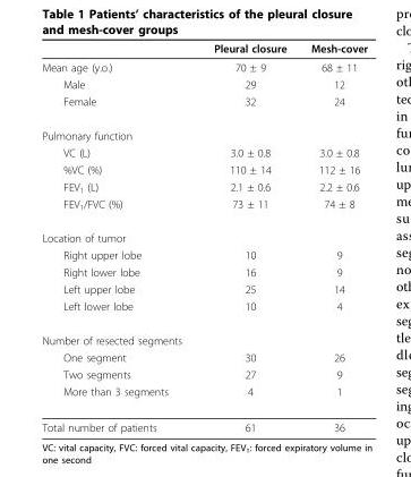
<table><thead><tr><td></td><td>Pleural closure</td><td>Mesh-cover</td></tr></thead><tbody><tr><td>Mean age (y.o.)</td><td>70 ± 9</td><td>68 ± 11</td></tr><tr><td>Male</td><td>29</td><td>12</td></tr><tr><td>Female</td><td>32</td><td>24</td></tr><tr><td colspan="3">Pulmonary function</td></tr><tr><td>VC (L)</td><td>3.0 ± 0.8</td><td>3.0 ± 0.8</td></tr><tr><td>%VC (%)</td><td>110 ± 14</td><td>112 ± 16</td></tr><tr><td>FEV<sub>1</sub> (L)</td><td>2.1 ± 0.6</td><td>2.2 ± 0.6</td></tr><tr><td>FEV<sub>1</sub>/FVC (%)</td><td>73 ± 11</td><td>74 ± 8</td></tr><tr><td colspan="3">Location of tumor</td></tr><tr><td>Right upper lobe</td><td>10</td><td>9</td></tr><tr><td>Right lower lobe</td><td>16</td><td>9</td></tr><tr><td>Left upper lobe</td><td>25</td><td>14</td></tr><tr><td>Left lower lobe</td><td>10</td><td>4</td></tr><tr><td colspan="3">Number of resected segments</td></tr><tr><td>One segment</td><td>30</td><td>26</td></tr><tr><td>Two segments</td><td>27</td><td>9</td></tr><tr><td>More than 3 segments</td><td>4</td><td>1</td></tr><tr><td>Total number of patients</td><td>61</td><td>36</td></tr></tbody></table>